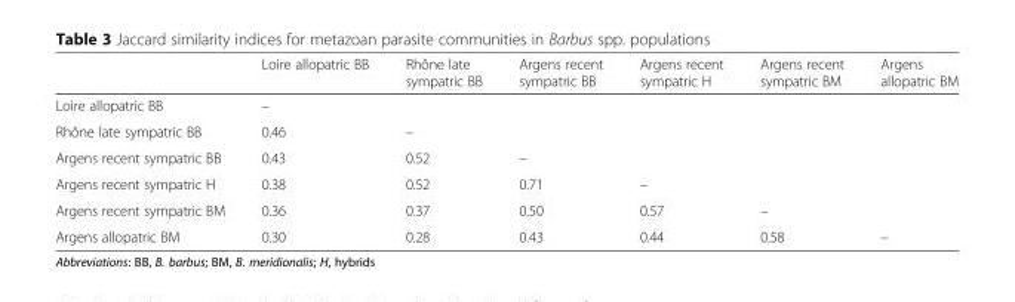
<table><thead><tr><td></td><td>Loire allopatric BB</td><td>Rhône late sympatric BB</td><td>Argens recent sympatric BB</td><td>Argens recent sympatric H</td><td>Argens recent sympatric BM</td><td>Argens allopatric BM</td></tr></thead><tbody><tr><td>Loire allopatric BB</td><td>–</td><td></td><td></td><td></td><td></td><td></td></tr><tr><td>Rhône late sympatric BB</td><td>0.46</td><td>–</td><td></td><td></td><td></td><td></td></tr><tr><td>Argens recent sympatric BB</td><td>0.43</td><td>0.52</td><td>–</td><td></td><td></td><td></td></tr><tr><td>Argens recent sympatric H</td><td>0.38</td><td>0.52</td><td>0.71</td><td>–</td><td></td><td></td></tr><tr><td>Argens recent sympatric BM</td><td>0.36</td><td>0.37</td><td>0.50</td><td>0.57</td><td>–</td><td></td></tr><tr><td>Argens allopatric BM</td><td>0.30</td><td>0.28</td><td>0.43</td><td>0.44</td><td>0.58</td><td>–</td></tr></tbody></table>